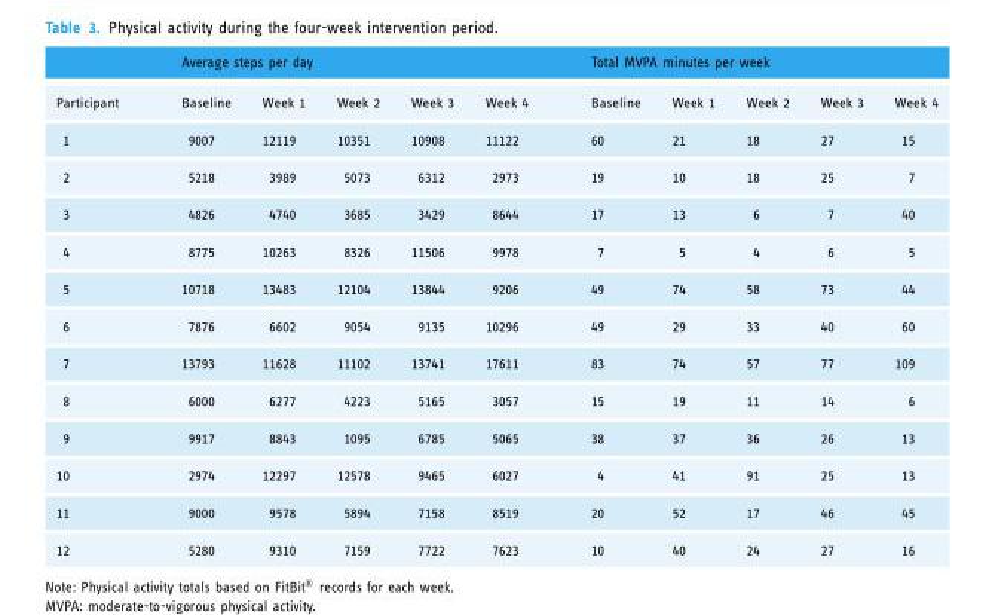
<table><thead><tr><td rowspan="2">Participant</td><td colspan="5">Average steps per day</td><td colspan="5">Total MVPA minutes per week</td></tr><tr><td>Baseline</td><td>Week 1</td><td>Week 2</td><td>Week 3</td><td>Week 4</td><td>Baseline</td><td>Week 1</td><td>Week 2</td><td>Week 3</td><td>Week 4</td></tr></thead><tbody><tr><td>1</td><td>9007</td><td>12119</td><td>10351</td><td>10908</td><td>11122</td><td>60</td><td>21</td><td>18</td><td>27</td><td>15</td></tr><tr><td>2</td><td>5218</td><td>3989</td><td>5073</td><td>6312</td><td>2973</td><td>19</td><td>10</td><td>18</td><td>25</td><td>7</td></tr><tr><td>3</td><td>4826</td><td>4740</td><td>3685</td><td>3429</td><td>8644</td><td>17</td><td>13</td><td>6</td><td>7</td><td>40</td></tr><tr><td>4</td><td>8775</td><td>10263</td><td>8326</td><td>11506</td><td>9978</td><td>7</td><td>5</td><td>4</td><td>6</td><td>5</td></tr><tr><td>5</td><td>10718</td><td>13483</td><td>12104</td><td>13844</td><td>9206</td><td>49</td><td>74</td><td>58</td><td>73</td><td>44</td></tr><tr><td>6</td><td>7876</td><td>6602</td><td>9054</td><td>9135</td><td>10296</td><td>49</td><td>29</td><td>33</td><td>40</td><td>60</td></tr><tr><td>7</td><td>13793</td><td>11628</td><td>11102</td><td>13741</td><td>17611</td><td>83</td><td>74</td><td>57</td><td>77</td><td>109</td></tr><tr><td>8</td><td>6000</td><td>6277</td><td>4223</td><td>5165</td><td>3057</td><td>15</td><td>19</td><td>11</td><td>14</td><td>6</td></tr><tr><td>9</td><td>9917</td><td>8843</td><td>1095</td><td>6785</td><td>5065</td><td>38</td><td>37</td><td>36</td><td>26</td><td>13</td></tr><tr><td>10</td><td>2974</td><td>12297</td><td>12578</td><td>9465</td><td>6027</td><td>4</td><td>41</td><td>91</td><td>25</td><td>13</td></tr><tr><td>11</td><td>9000</td><td>9578</td><td>5894</td><td>7158</td><td>8519</td><td>20</td><td>52</td><td>17</td><td>46</td><td>45</td></tr><tr><td>12</td><td>5280</td><td>9310</td><td>7159</td><td>7722</td><td>7623</td><td>10</td><td>40</td><td>24</td><td>27</td><td>16</td></tr></tbody></table>